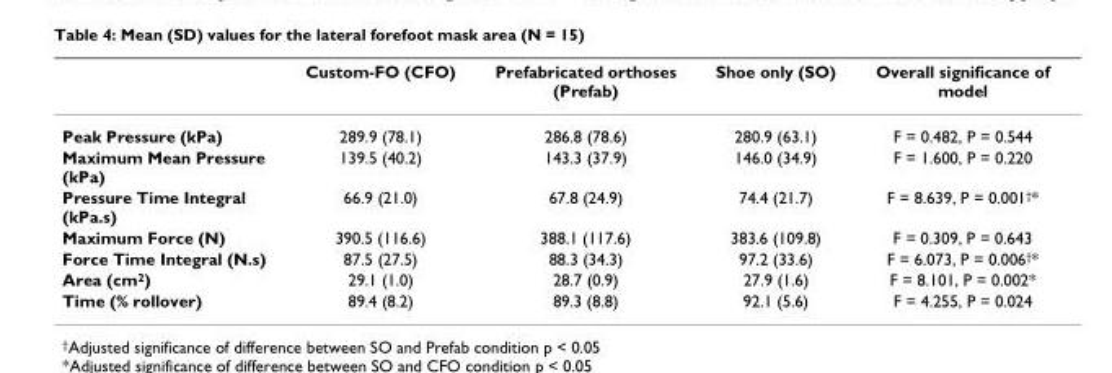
<table><thead><tr><td></td><td>Custom-FO (CFO)</td><td>Prefabricated orthoses (Prefab)</td><td>Shoe only (SO)</td><td>Overall significance of model</td></tr></thead><tbody><tr><td>Peak Pressure (kPa)</td><td>289.9 (78.1)</td><td>286.8 (78.6)</td><td>280.9 (63.1)</td><td>F = 0.482, P = 0.544</td></tr><tr><td>Maximum Mean Pressure (kPa)</td><td>139.5 (40.2)</td><td>143.3 (37.9)</td><td>146.0 (34.9)</td><td>F = 1.600, P = 0.220</td></tr><tr><td>Pressure Time Integral (kPa.s)</td><td>66.9 (21.0)</td><td>67.8 (24.9)</td><td>74.4 (21.7)</td><td>F = 8.639, P = 0.001<sup>†</sup>*</td></tr><tr><td>Maximum Force (N)</td><td>390.5 (116.6)</td><td>388.1 (117.6)</td><td>383.6 (109.8)</td><td>F = 0.309, P = 0.643</td></tr><tr><td>Force Time Integral (N.s)</td><td>87.5 (27.5)</td><td>88.3 (34.3)</td><td>97.2 (33.6)</td><td>F = 6.073, P = 0.006<sup>†</sup>*</td></tr><tr><td>Area (cm<sup>2</sup>)</td><td>29.1 (1.0)</td><td>28.7 (0.9)</td><td>27.9 (1.6)</td><td>F = 8.101, P = 0.002*</td></tr><tr><td>Time (% rollover)</td><td>89.4 (8.2)</td><td>89.3 (8.8)</td><td>92.1 (5.6)</td><td>F = 4.255, P = 0.024</td></tr></tbody></table>